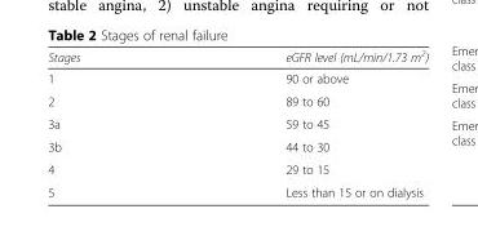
<table><thead><tr><td>Stages</td><td>eGFR level (mL/min/1.73 m<sup>2</sup>)</td></tr></thead><tbody><tr><td>1</td><td>90 or above</td></tr><tr><td>2</td><td>89 to 60</td></tr><tr><td>3a</td><td>59 to 45</td></tr><tr><td>3b</td><td>44 to 30</td></tr><tr><td>4</td><td>29 to 15</td></tr><tr><td>5</td><td>Less than 15 or on dialysis</td></tr></tbody></table>